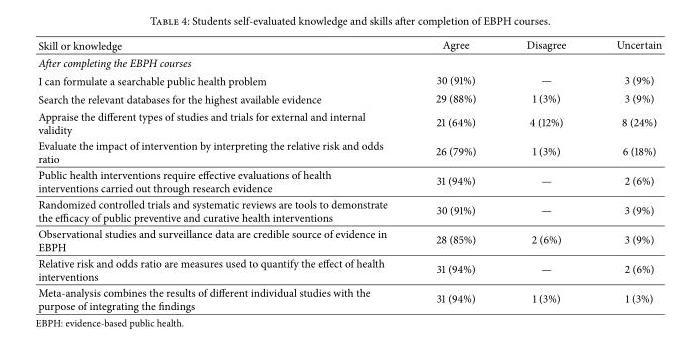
<table><thead><tr><td>Skill or knowledge</td><td>Agree</td><td>Disagree</td><td>Uncertain</td></tr></thead><tbody><tr><td colspan="4">After completing the EBPH courses</td></tr><tr><td>I can formulate a searchable public health problem</td><td>30 (91%)</td><td>—</td><td>3 (9%)</td></tr><tr><td>Search the relevant databases for the highest available evidence</td><td>29 (88%)</td><td>1 (3%)</td><td>3 (9%)</td></tr><tr><td>Appraise the different types of studies and trials for external and internal validity</td><td>21 (64%)</td><td>4 (12%)</td><td>8 (24%)</td></tr><tr><td>Evaluate the impact of intervention by interpreting the relative risk and odds ratio</td><td>26 (79%)</td><td>1 (3%)</td><td>6 (18%)</td></tr><tr><td>Public health interventions require effective evaluations of health interventions carried out through research evidence</td><td>31 (94%)</td><td>—</td><td>2 (6%)</td></tr><tr><td>Randomized controlled trials and systematic reviews are tools to demonstrate the efficacy of public preventive and curative health interventions</td><td>30 (91%)</td><td>—</td><td>3 (9%)</td></tr><tr><td>Observational studies and surveillance data are credible source of evidence in EBPH</td><td>28 (85%)</td><td>2 (6%)</td><td>3 (9%)</td></tr><tr><td>Relative risk and odds ratio are measures used to quantify the effect of health interventions</td><td>31 (94%)</td><td>—</td><td>2 (6%)</td></tr><tr><td>Meta-analysis combines the results of different individual studies with the purpose of integrating the findings</td><td>31 (94%)</td><td>1 (3%)</td><td>1 (3%)</td></tr></tbody></table>